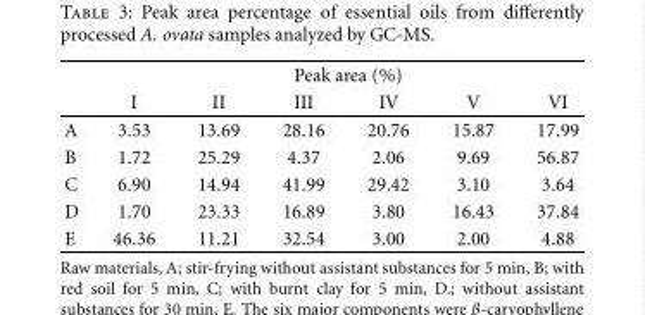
<table><thead><tr><td rowspan="2"></td><td colspan="6">Peak area (%)</td></tr><tr><td>I</td><td>II</td><td>III</td><td>IV</td><td>V</td><td>VI</td></tr></thead><tbody><tr><td>A</td><td>3.53</td><td>13.69</td><td>28.16</td><td>20.76</td><td>15.87</td><td>17.99</td></tr><tr><td>B</td><td>1.72</td><td>25.29</td><td>4.37</td><td>2.06</td><td>9.69</td><td>56.87</td></tr><tr><td>C</td><td>6.90</td><td>14.94</td><td>41.99</td><td>29.42</td><td>3.10</td><td>3.64</td></tr><tr><td>D</td><td>1.70</td><td>23.33</td><td>16.89</td><td>3.80</td><td>16.43</td><td>37.84</td></tr><tr><td>E</td><td>46.36</td><td>11.21</td><td>32.54</td><td>3.00</td><td>2.00</td><td>4.88</td></tr></tbody></table>